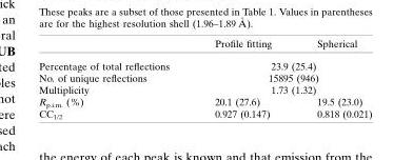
<table><thead><tr><td></td><td>Profile fitting</td><td>Spherical</td></tr></thead><tbody><tr><td>Percentage of total reflections</td><td colspan="2">23.9 (25.4)</td></tr><tr><td>No. of unique reflections</td><td colspan="2">15895 (946)</td></tr><tr><td>Multiplicity</td><td colspan="2">1.73 (1.32)</td></tr><tr><td>R<sub>p.i.m.</sub> (%)</td><td>20.1 (27.6)</td><td>19.5 (23.0)</td></tr><tr><td>CC<sub>1/2</sub></td><td>0.927 (0.147)</td><td>0.818 (0.021)</td></tr></tbody></table>